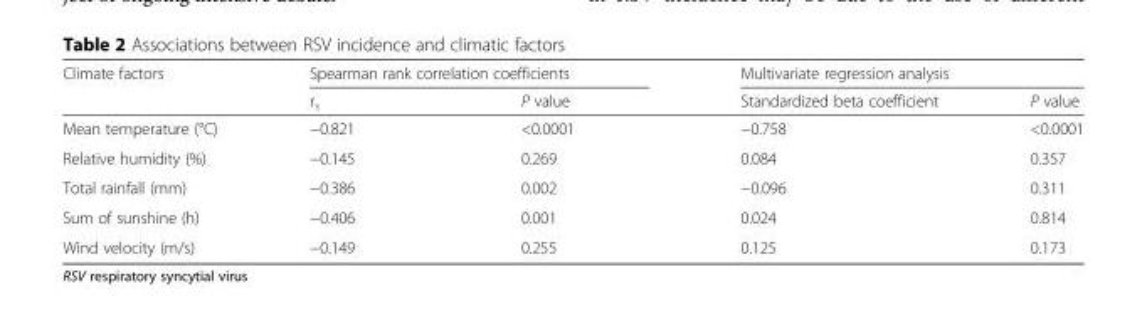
<table><thead><tr><td rowspan="2">Climate factors</td><td colspan="2">Spearman rank correlation coefficients</td><td colspan="2">Multivariate regression analysis</td></tr><tr><td>r<sub>s</sub></td><td>P value</td><td>Standardized beta coefficient</td><td>P value</td></tr></thead><tbody><tr><td>Mean temperature (°C)</td><td>−0.821</td><td>&lt;0.0001</td><td>−0.758</td><td>&lt;0.0001</td></tr><tr><td>Relative humidity (%)</td><td>−0.145</td><td>0.269</td><td>0.084</td><td>0.357</td></tr><tr><td>Total rainfall (mm)</td><td>−0.386</td><td>0.002</td><td>−0.096</td><td>0.311</td></tr><tr><td>Sum of sunshine (h)</td><td>−0.406</td><td>0.001</td><td>0.024</td><td>0.814</td></tr><tr><td>Wind velocity (m/s)</td><td>−0.149</td><td>0.255</td><td>0.125</td><td>0.173</td></tr></tbody></table>